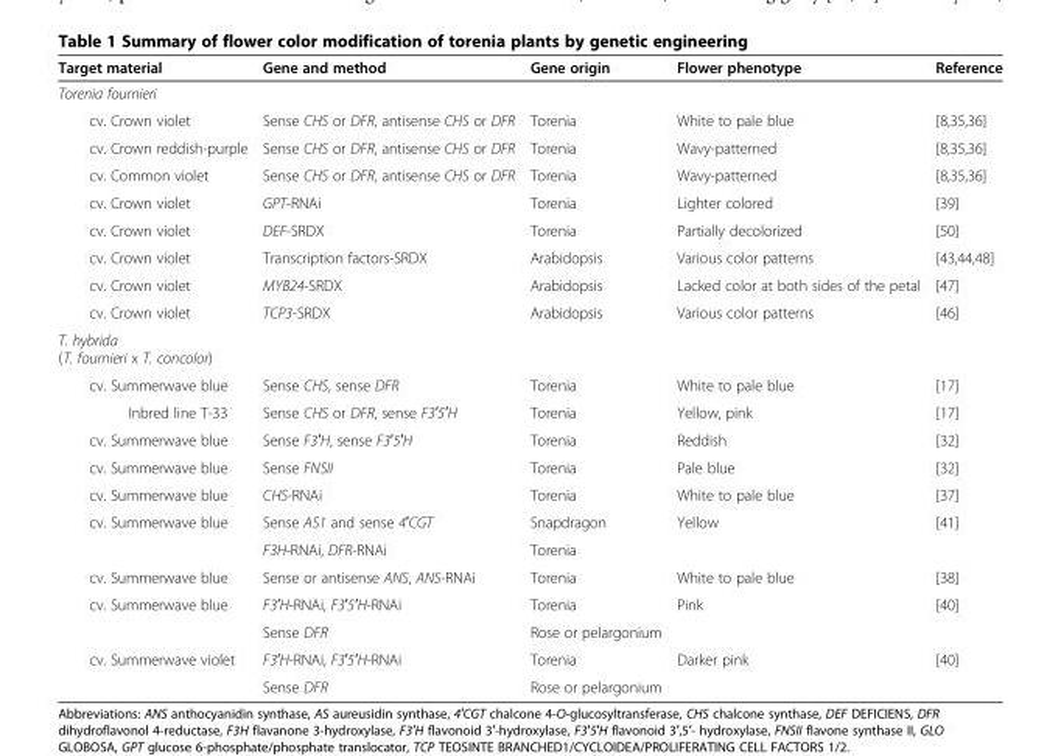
<table><thead><tr><td>Target material</td><td>Gene and method</td><td>Gene origin</td><td>Flower phenotype</td><td>Reference</td></tr></thead><tbody><tr><td colspan="5">Torenia fournieri</td></tr><tr><td>cv. Crown violet</td><td>Sense CHS or DFR, antisense CHS or DFR</td><td>Torenia</td><td>White to pale blue</td><td>[8,35,36]</td></tr><tr><td>cv. Crown reddish-purple</td><td>Sense CHS or DFR, antisense CHS or DFR</td><td>Torenia</td><td>Wavy-patterned</td><td>[8,35,36]</td></tr><tr><td>cv. Common violet</td><td>Sense CHS or DFR, antisense CHS or DFR</td><td>Torenia</td><td>Wavy-patterned</td><td>[8,35,36]</td></tr><tr><td>cv. Crown violet</td><td>GPT-RNAi</td><td>Torenia</td><td>Lighter colored</td><td>[39]</td></tr><tr><td>cv. Crown violet</td><td>DEF-SRDX</td><td>Torenia</td><td>Partially decolorized</td><td>[50]</td></tr><tr><td>cv. Crown violet</td><td>Transcription factors-SRDX</td><td>Arabidopsis</td><td>Various color patterns</td><td>[43,44,48]</td></tr><tr><td>cv. Crown violet</td><td>MYB24-SRDX</td><td>Arabidopsis</td><td>Lacked color at both sides of the petal</td><td>[47]</td></tr><tr><td>cv. Crown violet</td><td>TCP3-SRDX</td><td>Arabidopsis</td><td>Various color patterns</td><td>[46]</td></tr><tr><td colspan="5">T. hybrida (T. fournieri x T. concolor)</td></tr><tr><td>cv. Summerwave blue</td><td>Sense CHS, sense DFR</td><td>Torenia</td><td>White to pale blue</td><td>[17]</td></tr><tr><td>Inbred line T-33</td><td>Sense CHS or DFR, sense F3′5′H</td><td>Torenia</td><td>Yellow, pink</td><td>[17]</td></tr><tr><td>cv. Summerwave blue</td><td>Sense F3′H, sense F3′5′H</td><td>Torenia</td><td>Reddish</td><td>[32]</td></tr><tr><td>cv. Summerwave blue</td><td>Sense FNSII</td><td>Torenia</td><td>Pale blue</td><td>[32]</td></tr><tr><td>cv. Summerwave blue</td><td>CHS-RNAi</td><td>Torenia</td><td>White to pale blue</td><td>[37]</td></tr><tr><td rowspan="2">cv. Summerwave blue</td><td>Sense AS1 and sense 4′CGT</td><td>Snapdragon</td><td>Yellow</td><td>[41]</td></tr><tr><td>F3H-RNAi, DFR-RNAi</td><td>Torenia</td><td></td><td></td></tr><tr><td>cv. Summerwave blue</td><td>Sense or antisense ANS, ANS-RNAi</td><td>Torenia</td><td>White to pale blue</td><td>[38]</td></tr><tr><td rowspan="2">cv. Summerwave blue</td><td>F3′H-RNAi, F3′5′H-RNAi</td><td>Torenia</td><td>Pink</td><td>[40]</td></tr><tr><td>Sense DFR</td><td>Rose or pelargonium</td><td></td><td></td></tr><tr><td rowspan="2">cv. Summerwave violet</td><td>F3′H-RNAi, F3′5′H-RNAi</td><td>Torenia</td><td>Darker pink</td><td>[40]</td></tr><tr><td>Sense DFR</td><td>Rose or pelargonium</td><td></td><td></td></tr></tbody></table>